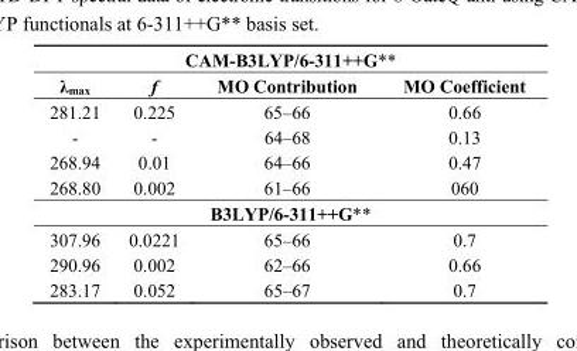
<table><thead><tr><td colspan="4">CAM-B3LYP/6-311++G**</td></tr><tr><td>λ<sub>max</sub></td><td>f</td><td>MO Contribution</td><td>MO Coefficient</td></tr></thead><tbody><tr><td>281.21</td><td>0.225</td><td>65–66</td><td>0.66</td></tr><tr><td>-</td><td>-</td><td>64–68</td><td>0.13</td></tr><tr><td>268.94</td><td>0.01</td><td>64–66</td><td>0.47</td></tr><tr><td>268.80</td><td>0.002</td><td>61–66</td><td>060</td></tr><tr><td colspan="4">B3LYP/6-311++G**</td></tr><tr><td>307.96</td><td>0.0221</td><td>65–66</td><td>0.7</td></tr><tr><td>290.96</td><td>0.002</td><td>62–66</td><td>0.66</td></tr><tr><td>283.17</td><td>0.052</td><td>65–67</td><td>0.7</td></tr></tbody></table>